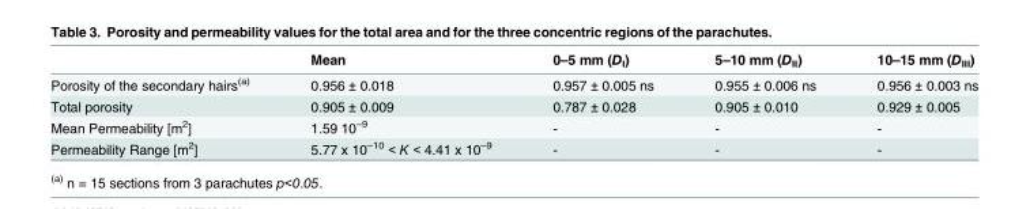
<table><thead><tr><td></td><td>Mean</td><td>0–5 mm (D<sub>I</sub>)</td><td>5–10 mm (D<sub>II</sub>)</td><td>10–15 mm (D<sub>III</sub>)</td></tr></thead><tbody><tr><td>Porosity of the secondary hairs<sup>(a)</sup></td><td>0.956 ± 0.018</td><td>0.957 ± 0.005 ns</td><td>0.955 ± 0.006 ns</td><td>0.956 ± 0.003 ns</td></tr><tr><td>Total porosity</td><td>0.905 ± 0.009</td><td>0.787 ± 0.028</td><td>0.905 ± 0.010</td><td>0.929 ± 0.005</td></tr><tr><td>Mean Permeability [m<sup>2</sup>]</td><td>1.59 10<sup>–9</sup></td><td>-</td><td>-</td><td>-</td></tr><tr><td>Permeability Range [m<sup>2</sup>]</td><td>5.77 x 10<sup>–10</sup> &lt; K &lt; 4.41 x 10<sup>–9</sup></td><td>-</td><td>-</td><td>-</td></tr></tbody></table>